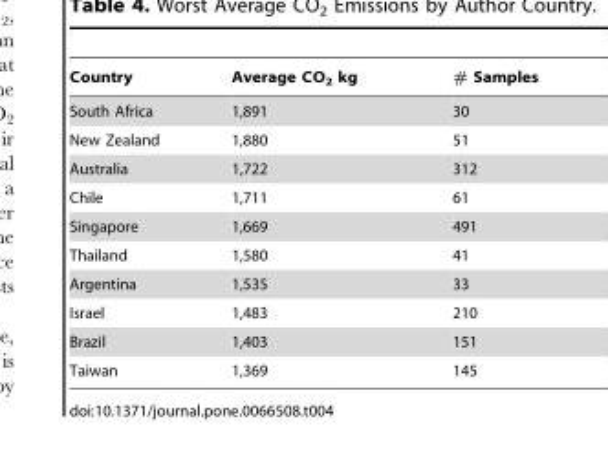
<table><thead><tr><td>Country</td><td>Average CO<sub>2</sub> kg</td><td># Samples</td></tr></thead><tbody><tr><td>South Africa</td><td>1,891</td><td>30</td></tr><tr><td>New Zealand</td><td>1,880</td><td>51</td></tr><tr><td>Australia</td><td>1,722</td><td>312</td></tr><tr><td>Chile</td><td>1,711</td><td>61</td></tr><tr><td>Singapore</td><td>1,669</td><td>491</td></tr><tr><td>Thailand</td><td>1,580</td><td>41</td></tr><tr><td>Argentina</td><td>1,535</td><td>33</td></tr><tr><td>Israel</td><td>1,483</td><td>210</td></tr><tr><td>Brazil</td><td>1,403</td><td>151</td></tr><tr><td>Taiwan</td><td>1,369</td><td>145</td></tr></tbody></table>